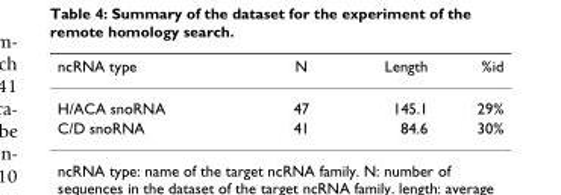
<table><thead><tr><td>ncRNA type</td><td>N</td><td>Length</td><td>%id</td></tr></thead><tbody><tr><td>H/ACA snoRNA</td><td>47</td><td>145.1</td><td>29%</td></tr><tr><td>C/D snoRNA</td><td>41</td><td>84.6</td><td>30%</td></tr></tbody></table>